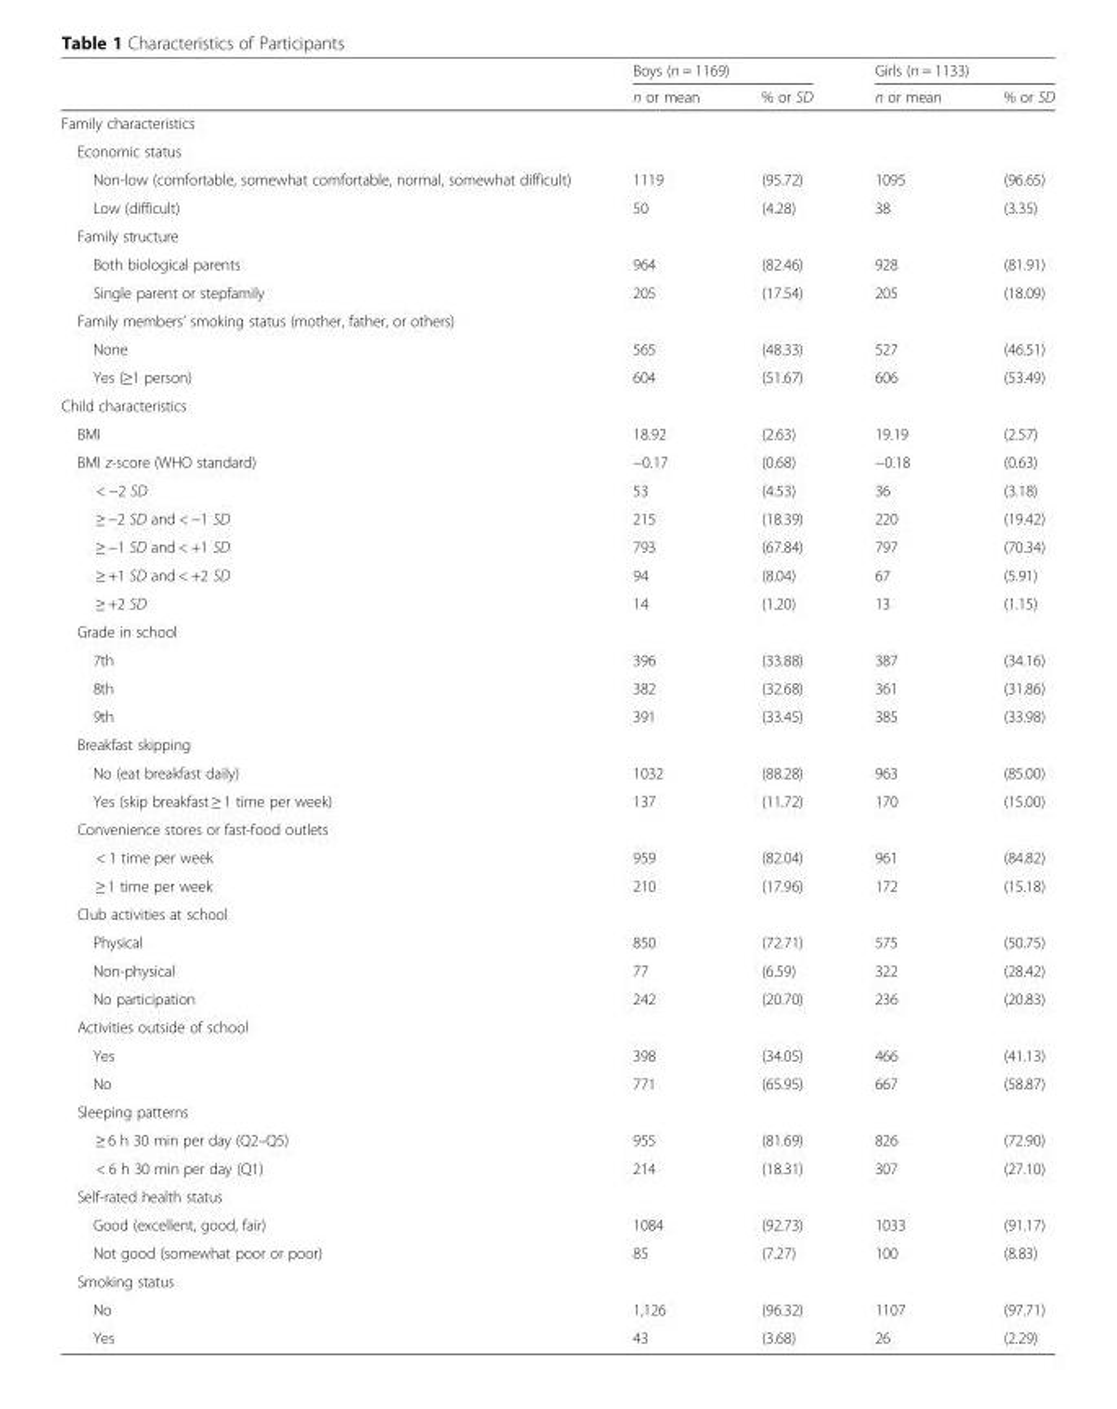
<table><thead><tr><td rowspan="2"></td><td colspan="2">Boys (n = 1169)</td><td colspan="2">Girls (n = 1133)</td></tr><tr><td>n or mean</td><td>% or SD</td><td>n or mean</td><td>% or SD</td></tr></thead><tbody><tr><td colspan="5">Family characteristics</td></tr><tr><td colspan="5">Economic status</td></tr><tr><td>Non-low (comfortable, somewhat comfortable, normal, somewhat difficult)</td><td>1119</td><td>(95.72)</td><td>1095</td><td>(96.65)</td></tr><tr><td>Low (difficult)</td><td>50</td><td>(4.28)</td><td>38</td><td>(3.35)</td></tr><tr><td colspan="5">Family structure</td></tr><tr><td>Both biological parents</td><td>964</td><td>(82.46)</td><td>928</td><td>(81.91)</td></tr><tr><td>Single parent or stepfamily</td><td>205</td><td>(17.54)</td><td>205</td><td>(18.09)</td></tr><tr><td colspan="5">Family members’ smoking status (mother, father, or others)</td></tr><tr><td>None</td><td>565</td><td>(48.33)</td><td>527</td><td>(46.51)</td></tr><tr><td>Yes (≥1 person)</td><td>604</td><td>(51.67)</td><td>606</td><td>(53.49)</td></tr><tr><td colspan="5">Child characteristics</td></tr><tr><td>BMI</td><td>18.92</td><td>(2.63)</td><td>19.19</td><td>(2.57)</td></tr><tr><td>BMI z-score (WHO standard)</td><td>−0.17</td><td>(0.68)</td><td>−0.18</td><td>(0.63)</td></tr><tr><td>&lt; −2 SD</td><td>53</td><td>(4.53)</td><td>36</td><td>(3.18)</td></tr><tr><td>≥ −2 SD and &lt; −1 SD</td><td>215</td><td>(18.39)</td><td>220</td><td>(19.42)</td></tr><tr><td>≥ −1 SD and &lt; +1 SD</td><td>793</td><td>(67.84)</td><td>797</td><td>(70.34)</td></tr><tr><td>≥ +1 SD and &lt; +2 SD</td><td>94</td><td>(8.04)</td><td>67</td><td>(5.91)</td></tr><tr><td>≥ +2 SD</td><td>14</td><td>(1.20)</td><td>13</td><td>(1.15)</td></tr><tr><td colspan="5">Grade in school</td></tr><tr><td>7th</td><td>396</td><td>(33.88)</td><td>387</td><td>(34.16)</td></tr><tr><td>8th</td><td>382</td><td>(32.68)</td><td>361</td><td>(31.86)</td></tr><tr><td>9th</td><td>391</td><td>(33.45)</td><td>385</td><td>(33.98)</td></tr><tr><td colspan="5">Breakfast skipping</td></tr><tr><td>No (eat breakfast daily)</td><td>1032</td><td>(88.28)</td><td>963</td><td>(85.00)</td></tr><tr><td>Yes (skip breakfast ≥ 1 time per week)</td><td>137</td><td>(11.72)</td><td>170</td><td>(15.00)</td></tr><tr><td colspan="5">Convenience stores or fast-food outlets</td></tr><tr><td>&lt; 1 time per week</td><td>959</td><td>(82.04)</td><td>961</td><td>(84.82)</td></tr><tr><td>≥ 1 time per week</td><td>210</td><td>(17.96)</td><td>172</td><td>(15.18)</td></tr><tr><td colspan="5">Club activities at school</td></tr><tr><td>Physical</td><td>850</td><td>(72.71)</td><td>575</td><td>(50.75)</td></tr><tr><td>Non-physical</td><td>77</td><td>(6.59)</td><td>322</td><td>(28.42)</td></tr><tr><td>No participation</td><td>242</td><td>(20.70)</td><td>236</td><td>(20.83)</td></tr><tr><td colspan="5">Activities outside of school</td></tr><tr><td>Yes</td><td>398</td><td>(34.05)</td><td>466</td><td>(41.13)</td></tr><tr><td>No</td><td>771</td><td>(65.95)</td><td>667</td><td>(58.87)</td></tr><tr><td colspan="5">Sleeping patterns</td></tr><tr><td>≥ 6 h 30 min per day (Q2–Q5)</td><td>955</td><td>(81.69)</td><td>826</td><td>(72.90)</td></tr><tr><td>&lt; 6 h 30 min per day (Q1)</td><td>214</td><td>(18.31)</td><td>307</td><td>(27.10)</td></tr><tr><td colspan="5">Self-rated health status</td></tr><tr><td>Good (excellent, good, fair)</td><td>1084</td><td>(92.73)</td><td>1033</td><td>(91.17)</td></tr><tr><td>Not good (somewhat poor or poor)</td><td>85</td><td>(7.27)</td><td>100</td><td>(8.83)</td></tr><tr><td colspan="5">Smoking status</td></tr><tr><td>No</td><td>1,126</td><td>(96.32)</td><td>1107</td><td>(97.71)</td></tr><tr><td>Yes</td><td>43</td><td>(3.68)</td><td>26</td><td>(2.29)</td></tr></tbody></table>